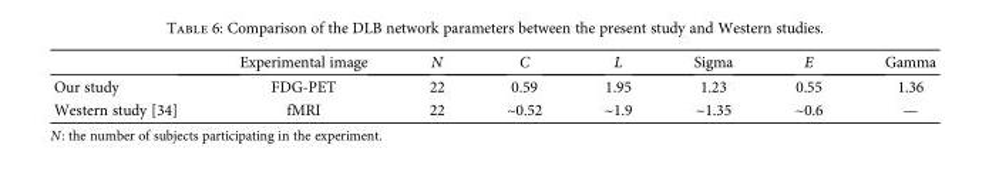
<table><thead><tr><td></td><td>Experimental image</td><td>N</td><td>C</td><td>L</td><td>Sigma</td><td>E</td><td>Gamma</td></tr></thead><tbody><tr><td>Our study</td><td>FDG-PET</td><td>22</td><td>0.59</td><td>1.95</td><td>1.23</td><td>0.55</td><td>1.36</td></tr><tr><td>Western study [34]</td><td>fMRI</td><td>22</td><td>~0.52</td><td>~1.9</td><td>~1.35</td><td>~0.6</td><td>—</td></tr></tbody></table>